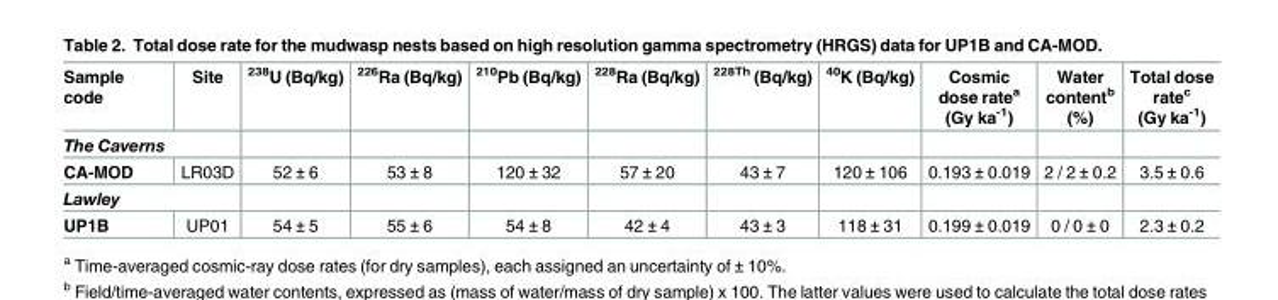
<table><thead><tr><td>Sample code</td><td>Site</td><td><sup>238</sup>U (Bq/kg)</td><td><sup>226</sup>Ra (Bq/kg)</td><td><sup>210</sup>Pb (Bq/kg)</td><td><sup>228</sup>Ra (Bq/kg)</td><td><sup>228Th</sup> (Bq/kg)</td><td><sup>40</sup>K (Bq/kg)</td><td>Cosmic dose rate<sup>a</sup> (Gy ka<sup>-1</sup>)</td><td>Water content<sup>b</sup> (%)</td><td>Total dose rate<sup>c</sup> (Gy ka<sup>-1</sup>)</td></tr></thead><tbody><tr><td colspan="11">The Caverns</td></tr><tr><td>CA-MOD</td><td>LR03D</td><td>52 ± 6</td><td>53 ± 8</td><td>120 ± 32</td><td>57 ± 20</td><td>43 ± 7</td><td>120 ± 106</td><td>0.193 ± 0.019</td><td>2 / 2 ± 0.2</td><td>3.5 ± 0.6</td></tr><tr><td colspan="11">Lawley</td></tr><tr><td>UP1B</td><td>UP01</td><td>54 ± 5</td><td>55 ± 6</td><td>54 ± 8</td><td>42 ± 4</td><td>43 ± 3</td><td>118 ± 31</td><td>0.199 ± 0.019</td><td>0 / 0 ± 0</td><td>2.3 ± 0.2</td></tr></tbody></table>